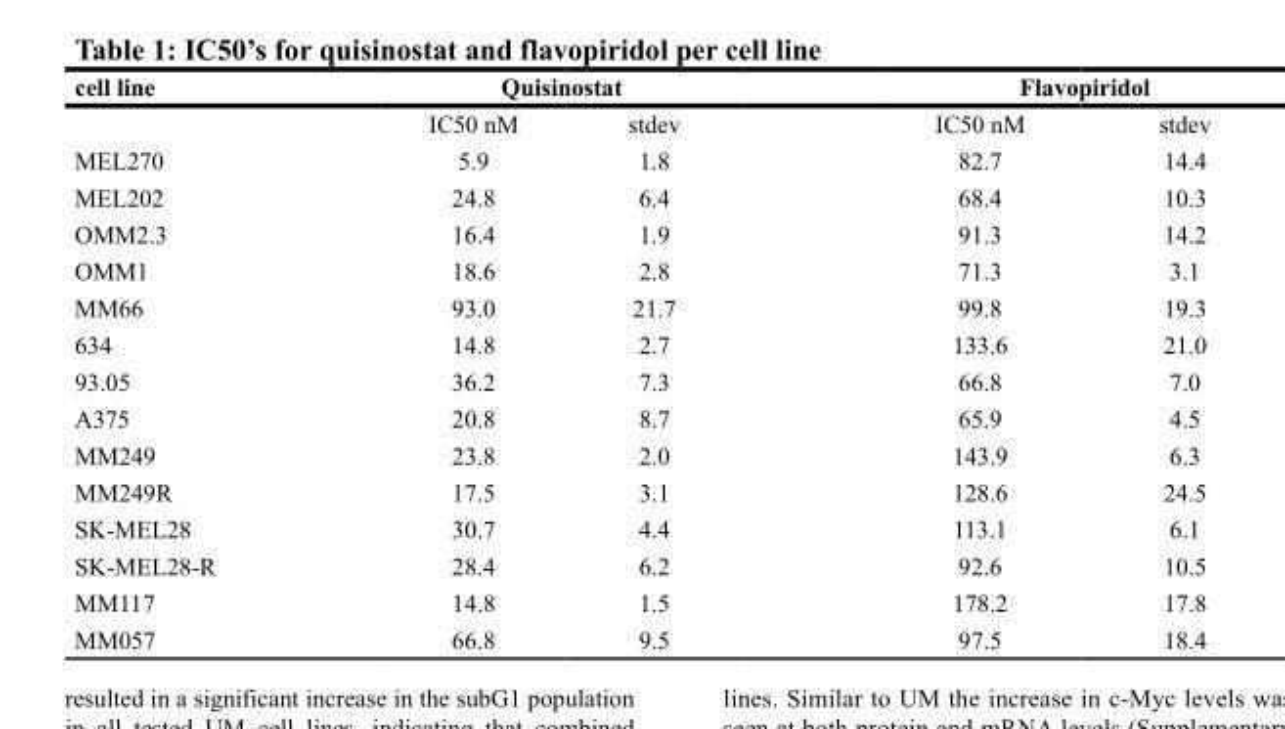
<table><thead><tr><td rowspan="2">cell line</td><td colspan="2">Quisinostat</td><td colspan="2">Flavopiridol</td></tr><tr><td>IC50 nM</td><td>stdev</td><td>IC50 nM</td><td>stdev</td></tr></thead><tbody><tr><td>MEL270</td><td>5.9</td><td>1.8</td><td>82.7</td><td>14.4</td></tr><tr><td>MEL202</td><td>24.8</td><td>6.4</td><td>68.4</td><td>10.3</td></tr><tr><td>OMM2.3</td><td>16.4</td><td>1.9</td><td>91.3</td><td>14.2</td></tr><tr><td>OMM1</td><td>18.6</td><td>2.8</td><td>71.3</td><td>3.1</td></tr><tr><td>MM66</td><td>93.0</td><td>21.7</td><td>99.8</td><td>19.3</td></tr><tr><td>634</td><td>14.8</td><td>2.7</td><td>133.6</td><td>21.0</td></tr><tr><td>93.05</td><td>36.2</td><td>7.3</td><td>66.8</td><td>7.0</td></tr><tr><td>A375</td><td>20.8</td><td>8.7</td><td>65.9</td><td>4.5</td></tr><tr><td>MM249</td><td>23.8</td><td>2.0</td><td>143.9</td><td>6.3</td></tr><tr><td>MM249R</td><td>17.5</td><td>3.1</td><td>128.6</td><td>24.5</td></tr><tr><td>SK-MEL28</td><td>30.7</td><td>4.4</td><td>113.1</td><td>6.1</td></tr><tr><td>SK-MEL28-R</td><td>28.4</td><td>6.2</td><td>92.6</td><td>10.5</td></tr><tr><td>MM117</td><td>14.8</td><td>1.5</td><td>178.2</td><td>17.8</td></tr><tr><td>MM057</td><td>66.8</td><td>9.5</td><td>97.5</td><td>18.4</td></tr></tbody></table>